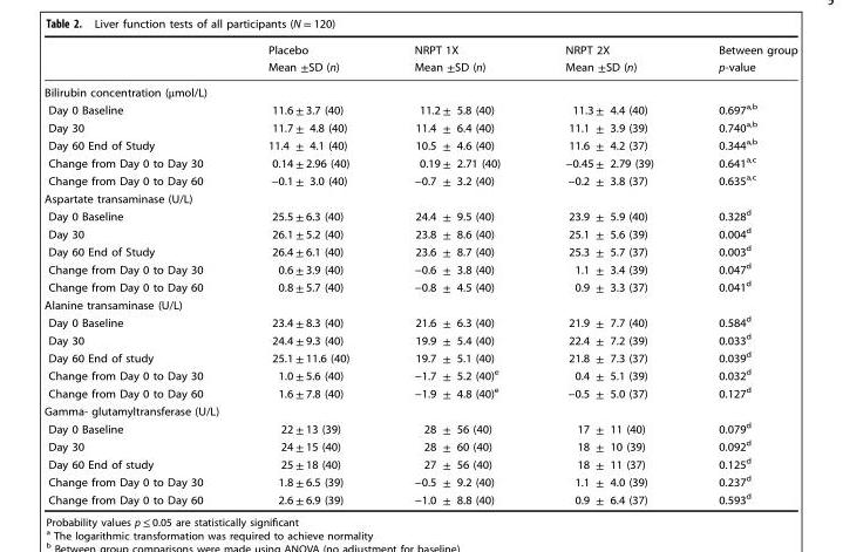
<table><thead><tr><td rowspan="2"></td><td rowspan="2">Placebo Mean ±SD (n)</td><td rowspan="2">NRPT 1X Mean ±SD (n)</td><td rowspan="2">NRPT 2X Mean ±SD (n)</td><td rowspan="2">Between group p-value</td></tr><tr></tr></thead><tbody><tr><td colspan="5">Bilirubin concentration (μmol/L)</td></tr><tr><td>Day 0 Baseline</td><td>11.6 ± 3.7 (40)</td><td>11.2 ± 5.8 (40)</td><td>11.3 ± 4.4 (40)</td><td>0.697<sup>a,b</sup></td></tr><tr><td>Day 30</td><td>11.7 ± 4.8 (40)</td><td>11.4 ± 6.4 (40)</td><td>11.1 ± 3.9 (39)</td><td>0.740<sup>a,b</sup></td></tr><tr><td>Day 60 End of Study</td><td>11.4 ± 4.1 (40)</td><td>10.5 ± 4.6 (40)</td><td>11.6 ± 4.2 (37)</td><td>0.344<sup>a,b</sup></td></tr><tr><td>Change from Day 0 to Day 30</td><td>0.14 ± 2.96 (40)</td><td>0.19 ± 2.71 (40)</td><td>−0.45 ± 2.79 (39)</td><td>0.641<sup>a,c</sup></td></tr><tr><td>Change from Day 0 to Day 60</td><td>−0.1 ± 3.0 (40)</td><td>−0.7 ± 3.2 (40)</td><td>−0.2 ± 3.8 (37)</td><td>0.635<sup>a,c</sup></td></tr><tr><td colspan="5">Aspartate transaminase (U/L)</td></tr><tr><td>Day 0 Baseline</td><td>25.5 ± 6.3 (40)</td><td>24.4 ± 9.5 (40)</td><td>23.9 ± 5.9 (40)</td><td>0.328<sup>d</sup></td></tr><tr><td>Day 30</td><td>26.1 ± 5.2 (40)</td><td>23.8 ± 8.6 (40)</td><td>25.1 ± 5.6 (39)</td><td>0.004<sup>d</sup></td></tr><tr><td>Day 60 End of Study</td><td>26.4 ± 6.1 (40)</td><td>23.6 ± 8.7 (40)</td><td>25.3 ± 5.7 (37)</td><td>0.003<sup>d</sup></td></tr><tr><td>Change from Day 0 to Day 30</td><td>0.6 ± 3.9 (40)</td><td>−0.6 ± 3.8 (40)</td><td>1.1 ± 3.4 (39)</td><td>0.047<sup>d</sup></td></tr><tr><td>Change from Day 0 to Day 60</td><td>0.8 ± 5.7 (40)</td><td>−0.8 ± 4.5 (40)</td><td>0.9 ± 3.3 (37)</td><td>0.041<sup>d</sup></td></tr><tr><td colspan="5">Alanine transaminase (U/L)</td></tr><tr><td>Day 0 Baseline</td><td>23.4 ± 8.3 (40)</td><td>21.6 ± 6.3 (40)</td><td>21.9 ± 7.7 (40)</td><td>0.584<sup>d</sup></td></tr><tr><td>Day 30</td><td>24.4 ± 9.3 (40)</td><td>19.9 ± 5.4 (40)</td><td>22.4 ± 7.2 (39)</td><td>0.033<sup>d</sup></td></tr><tr><td>Day 60 End of study</td><td>25.1 ± 11.6 (40)</td><td>19.7 ± 5.1 (40)</td><td>21.8 ± 7.3 (37)</td><td>0.039<sup>d</sup></td></tr><tr><td>Change from Day 0 to Day 30</td><td>1.0 ± 5.6 (40)</td><td>−1.7 ± 5.2 (40)<sup>e</sup></td><td>0.4 ± 5.1 (39)</td><td>0.032<sup>d</sup></td></tr><tr><td>Change from Day 0 to Day 60</td><td>1.6 ± 7.8 (40)</td><td>−1.9 ± 4.8 (40)<sup>e</sup></td><td>−0.5 ± 5.0 (37)</td><td>0.127<sup>d</sup></td></tr><tr><td colspan="5">Gamma- glutamyltransferase (U/L)</td></tr><tr><td>Day 0 Baseline</td><td>22 ± 13 (39)</td><td>28 ± 56 (40)</td><td>17 ± 11 (40)</td><td>0.079<sup>d</sup></td></tr><tr><td>Day 30</td><td>24 ± 15 (40)</td><td>28 ± 60 (40)</td><td>18 ± 10 (39)</td><td>0.092<sup>d</sup></td></tr><tr><td>Day 60 End of study</td><td>25 ± 18 (40)</td><td>27 ± 56 (40)</td><td>18 ± 11 (37)</td><td>0.125<sup>d</sup></td></tr><tr><td>Change from Day 0 to Day 30</td><td>1.8 ± 6.5 (39)</td><td>−0.5 ± 9.2 (40)</td><td>1.1 ± 4.0 (39)</td><td>0.237<sup>d</sup></td></tr><tr><td>Change from Day 0 to Day 60</td><td>2.6 ± 6.9 (39)</td><td>−1.0 ± 8.8 (40)</td><td>0.9 ± 6.4 (37)</td><td>0.593<sup>d</sup></td></tr></tbody></table>